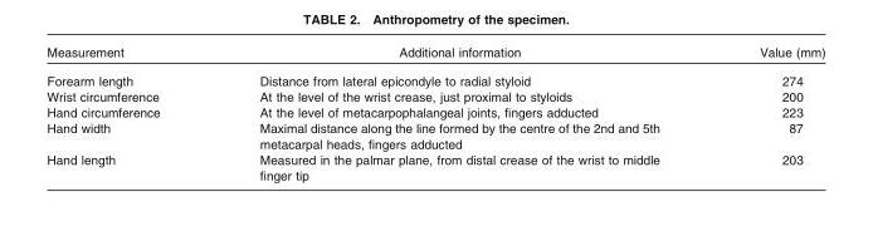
<table><thead><tr><td>Measurement</td><td>Additional information</td><td>Value (mm)</td></tr></thead><tbody><tr><td>Forearm length</td><td>Distance from lateral epicondyle to radial styloid</td><td>274</td></tr><tr><td>Wrist circumference</td><td>At the level of the wrist crease, just proximal to styloids</td><td>200</td></tr><tr><td>Hand circumference</td><td>At the level of metacarpophalangeal joints, fingers adducted</td><td>223</td></tr><tr><td>Hand width</td><td>Maximal distance along the line formed by the centre of the 2nd and 5th metacarpal heads, fingers adducted</td><td>87</td></tr><tr><td>Hand length</td><td>Measured in the palmar plane, from distal crease of the wrist to middle finger tip</td><td>203</td></tr></tbody></table>